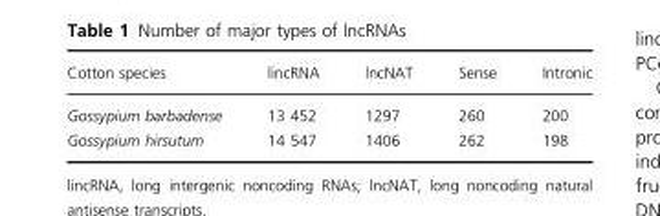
<table><thead><tr><td>Cotton species</td><td>lincRNA</td><td>lncNAT</td><td>Sense</td><td>Intronic</td></tr></thead><tbody><tr><td>Gossypium barbadense</td><td>13 452</td><td>1297</td><td>260</td><td>200</td></tr><tr><td>Gossypium hirsutum</td><td>14 547</td><td>1406</td><td>262</td><td>198</td></tr></tbody></table>